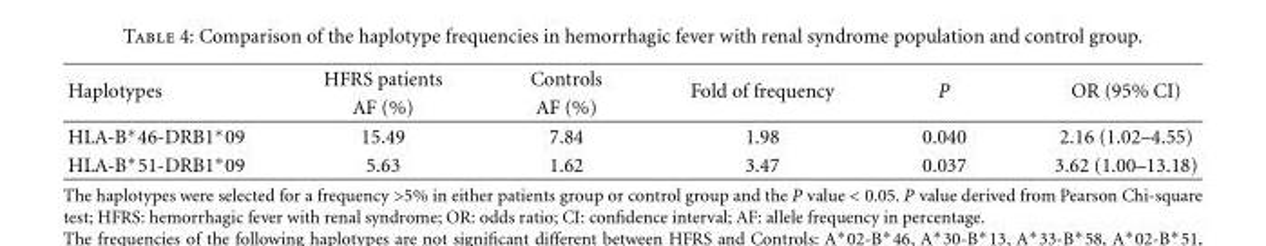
<table><thead><tr><td rowspan="2">Haplotypes</td><td rowspan="2">HFRS patients AF (%)</td><td rowspan="2">Controls AF (%)</td><td rowspan="2">Fold of frequency</td><td rowspan="2">P</td><td rowspan="2">OR (95% CI)</td></tr><tr></tr></thead><tbody><tr><td>HLA-B∗46-DRB1∗09</td><td>15.49</td><td>7.84</td><td>1.98</td><td>0.040</td><td>2.16 (1.02–4.55)</td></tr><tr><td>HLA-B∗51-DRB1∗09</td><td>5.63</td><td>1.62</td><td>3.47</td><td>0.037</td><td>3.62 (1.00–13.18)</td></tr></tbody></table>